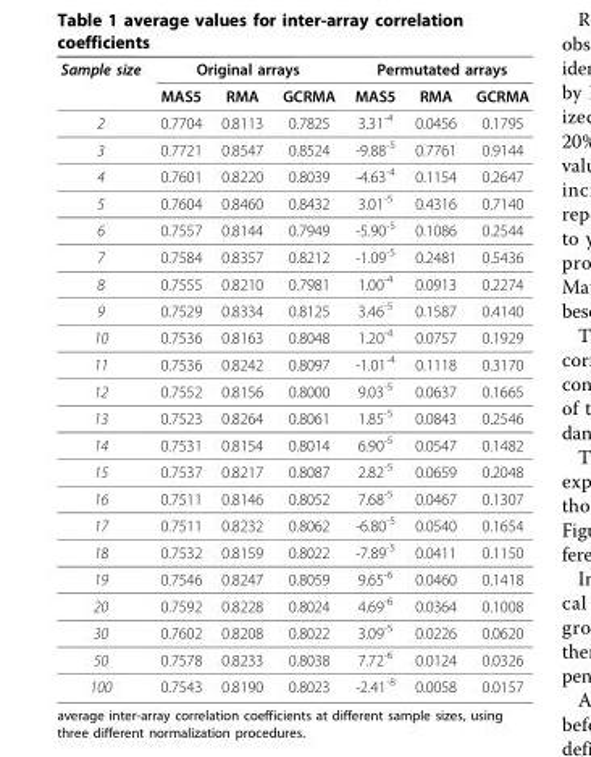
<table><thead><tr><td rowspan="2">Sample size</td><td colspan="3">Original arrays</td><td colspan="3">Permutated arrays</td></tr><tr><td>MAS5</td><td>RMA</td><td>GCRMA</td><td>MAS5</td><td>RMA</td><td>GCRMA</td></tr></thead><tbody><tr><td>2</td><td>0.7704</td><td>0.8113</td><td>0.7825</td><td>3.31<sup>-4</sup></td><td>0.0456</td><td>0.1795</td></tr><tr><td>3</td><td>0.7721</td><td>0.8547</td><td>0.8524</td><td>-9.88<sup>-5</sup></td><td>0.7761</td><td>0.9144</td></tr><tr><td>4</td><td>0.7601</td><td>0.8220</td><td>0.8039</td><td>-4.63<sup>-4</sup></td><td>0.1154</td><td>0.2647</td></tr><tr><td>5</td><td>0.7604</td><td>0.8460</td><td>0.8432</td><td>3.01<sup>-5</sup></td><td>0.4316</td><td>0.7140</td></tr><tr><td>6</td><td>0.7557</td><td>0.8144</td><td>0.7949</td><td>-5.90<sup>-5</sup></td><td>0.1086</td><td>0.2544</td></tr><tr><td>7</td><td>0.7584</td><td>0.8357</td><td>0.8212</td><td>-1.09<sup>-5</sup></td><td>0.2481</td><td>0.5436</td></tr><tr><td>8</td><td>0.7555</td><td>0.8210</td><td>0.7981</td><td>1.00<sup>-4</sup></td><td>0.0913</td><td>0.2274</td></tr><tr><td>9</td><td>0.7529</td><td>0.8334</td><td>0.8125</td><td>3.46<sup>-5</sup></td><td>0.1587</td><td>0.4140</td></tr><tr><td>10</td><td>0.7536</td><td>0.8163</td><td>0.8048</td><td>1.20<sup>-4</sup></td><td>0.0757</td><td>0.1929</td></tr><tr><td>11</td><td>0.7536</td><td>0.8242</td><td>0.8097</td><td>-1.01<sup>-4</sup></td><td>0.1118</td><td>0.3170</td></tr><tr><td>12</td><td>0.7552</td><td>0.8156</td><td>0.8000</td><td>9.03<sup>-5</sup></td><td>0.0637</td><td>0.1665</td></tr><tr><td>13</td><td>0.7523</td><td>0.8264</td><td>0.8061</td><td>1.85<sup>-5</sup></td><td>0.0843</td><td>0.2546</td></tr><tr><td>14</td><td>0.7531</td><td>0.8154</td><td>0.8014</td><td>6.90<sup>-5</sup></td><td>0.0547</td><td>0.1482</td></tr><tr><td>15</td><td>0.7537</td><td>0.8217</td><td>0.8087</td><td>2.82<sup>-5</sup></td><td>0.0659</td><td>0.2048</td></tr><tr><td>16</td><td>0.7511</td><td>0.8146</td><td>0.8052</td><td>7.68<sup>-5</sup></td><td>0.0467</td><td>0.1307</td></tr><tr><td>17</td><td>0.7511</td><td>0.8232</td><td>0.8062</td><td>-6.80<sup>-5</sup></td><td>0.0540</td><td>0.1654</td></tr><tr><td>18</td><td>0.7532</td><td>0.8159</td><td>0.8022</td><td>-7.89<sup>-5</sup></td><td>0.0411</td><td>0.1150</td></tr><tr><td>19</td><td>0.7546</td><td>0.8247</td><td>0.8059</td><td>9.65<sup>-6</sup></td><td>0.0460</td><td>0.1418</td></tr><tr><td>20</td><td>0.7592</td><td>0.8228</td><td>0.8024</td><td>4.69<sup>-6</sup></td><td>0.0364</td><td>0.1008</td></tr><tr><td>30</td><td>0.7602</td><td>0.8208</td><td>0.8022</td><td>3.09<sup>-5</sup></td><td>0.0226</td><td>0.0620</td></tr><tr><td>50</td><td>0.7578</td><td>0.8233</td><td>0.8038</td><td>7.72<sup>-6</sup></td><td>0.0124</td><td>0.0326</td></tr><tr><td>100</td><td>0.7543</td><td>0.8190</td><td>0.8023</td><td>-2.41<sup>-8</sup></td><td>0.0058</td><td>0.0157</td></tr></tbody></table>